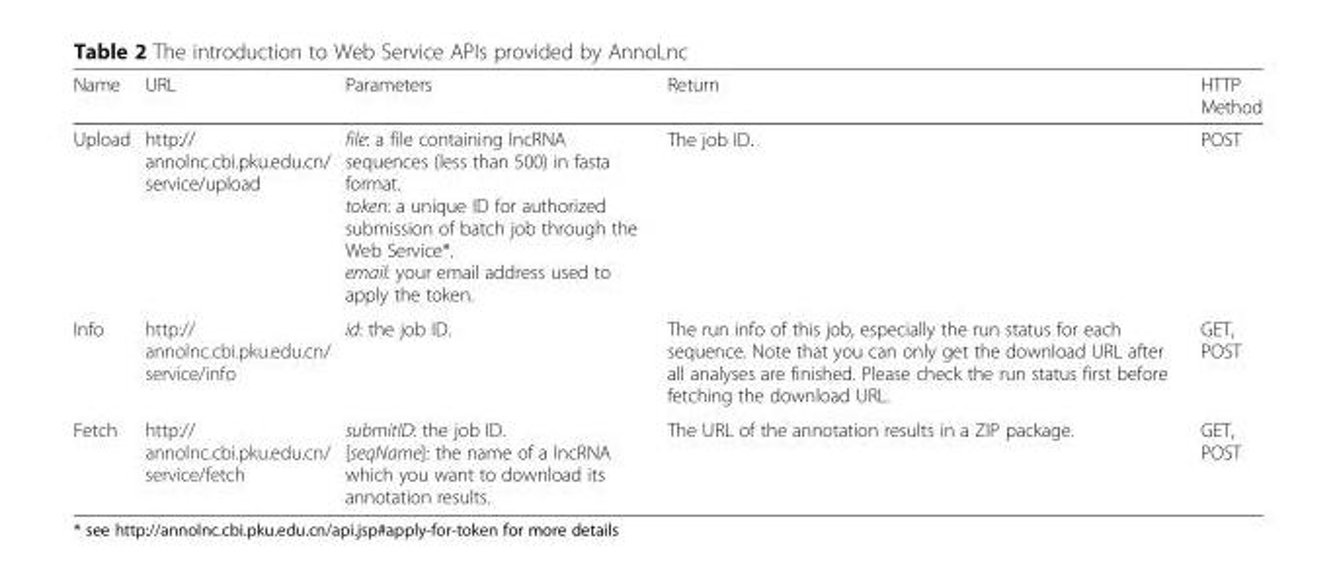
<table><thead><tr><td>Name</td><td>URL</td><td>Parameters</td><td>Return</td><td>HTTP Method</td></tr></thead><tbody><tr><td>Upload</td><td>http:// annolnc.cbi.pku.edu.cn/ service/upload</td><td>file: a file containing lncRNA sequences (less than 500) in fasta format. token: a unique ID for authorized submission of batch job through the Web Service*. email: your email address used to apply the token.</td><td>The job ID.</td><td>POST</td></tr><tr><td>Info</td><td>http:// annolnc.cbi.pku.edu.cn/ service/info</td><td>id: the job ID.</td><td>The run info of this job, especially the run status for each sequence. Note that you can only get the download URL after all analyses are finished. Please check the run status first before fetching the download URL.</td><td>GET, POST</td></tr><tr><td>Fetch</td><td>http:// annolnc.cbi.pku.edu.cn/ service/fetch</td><td>submitID: the job ID. [seqName]: the name of a lncRNA which you want to download its annotation results.</td><td>The URL of the annotation results in a ZIP package.</td><td>GET, POST</td></tr></tbody></table>